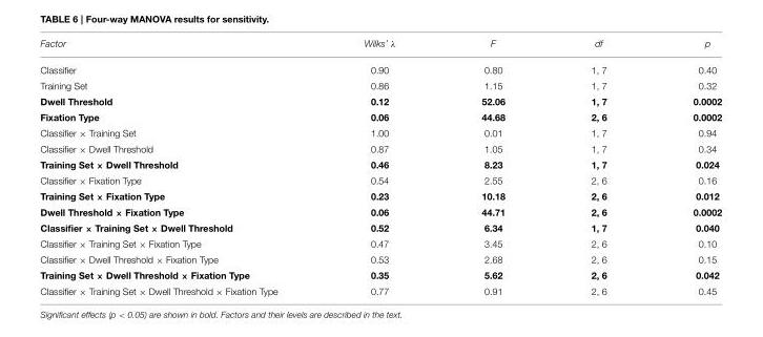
<table><tbody><tr><td>Factor</td><td>Wilks’ λ</td><td>F</td><td>df</td><td>p</td></tr><tr><td>Classifier</td><td>0.90</td><td>0.80</td><td>1, 7</td><td>0.40</td></tr><tr><td>Training Set</td><td>0.86</td><td>1.15</td><td>1, 7</td><td>0.32</td></tr><tr><td>Dwell Threshold</td><td>0.12</td><td>52.06</td><td>1, 7</td><td>0.0002</td></tr><tr><td>Fixation Type</td><td>0.06</td><td>44.68</td><td>2, 6</td><td>0.0002</td></tr><tr><td>Classifier × Training Set</td><td>1.00</td><td>0.01</td><td>1, 7</td><td>0.94</td></tr><tr><td>Classifier × Dwell Threshold</td><td>0.87</td><td>1.05</td><td>1, 7</td><td>0.34</td></tr><tr><td>Training Set × Dwell Threshold</td><td>0.46</td><td>8.23</td><td>1, 7</td><td>0.024</td></tr><tr><td>Classifier × Fixation Type</td><td>0.54</td><td>2.55</td><td>2, 6</td><td>0.16</td></tr><tr><td>Training Set × Fixation Type</td><td>0.23</td><td>10.18</td><td>2, 6</td><td>0.012</td></tr><tr><td>Dwell Threshold × Fixation Type</td><td>0.06</td><td>44.71</td><td>2, 6</td><td>0.0002</td></tr><tr><td>Classifier × Training Set × Dwell Threshold</td><td>0.52</td><td>6.34</td><td>1, 7</td><td>0.040</td></tr><tr><td>Classifier × Training Set × Fixation Type</td><td>0.47</td><td>3.45</td><td>2, 6</td><td>0.10</td></tr><tr><td>Classifier × Dwell Threshold × Fixation Type</td><td>0.53</td><td>2.68</td><td>2, 6</td><td>0.15</td></tr><tr><td>Training Set × Dwell Threshold × Fixation Type</td><td>0.35</td><td>5.62</td><td>2, 6</td><td>0.042</td></tr><tr><td>Classifier × Training Set × Dwell Threshold × Fixation Type</td><td>0.77</td><td>0.91</td><td>2, 6</td><td>0.45</td></tr></tbody></table>